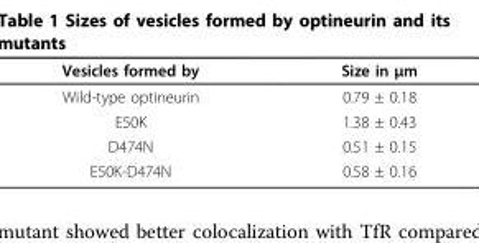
<table><thead><tr><td>Vesicles formed by</td><td>Size in μm</td></tr></thead><tbody><tr><td>Wild-type optineurin</td><td>0.79 ± 0.18</td></tr><tr><td>E50K</td><td>1.38 ± 0.43</td></tr><tr><td>D474N</td><td>0.51 ± 0.15</td></tr><tr><td>E50K-D474N</td><td>0.58 ± 0.16</td></tr></tbody></table>